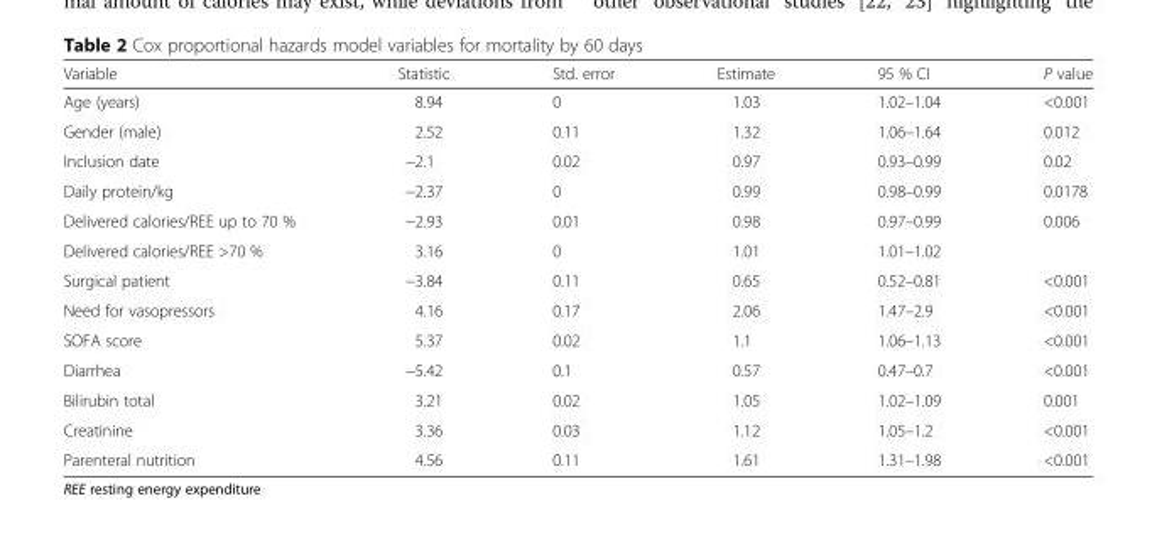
<table><thead><tr><td>Variable</td><td>Statistic</td><td>Std. error</td><td>Estimate</td><td>95 % CI</td><td>P value</td></tr></thead><tbody><tr><td>Age (years)</td><td>8.94</td><td>0</td><td>1.03</td><td>1.02–1.04</td><td>&lt;0.001</td></tr><tr><td>Gender (male)</td><td>2.52</td><td>0.11</td><td>1.32</td><td>1.06–1.64</td><td>0.012</td></tr><tr><td>Inclusion date</td><td>−2.1</td><td>0.02</td><td>0.97</td><td>0.93–0.99</td><td>0.02</td></tr><tr><td>Daily protein/kg</td><td>−2.37</td><td>0</td><td>0.99</td><td>0.98–0.99</td><td>0.0178</td></tr><tr><td>Delivered calories/REE up to 70 %</td><td>−2.93</td><td>0.01</td><td>0.98</td><td>0.97–0.99</td><td rowspan="2">0.006</td></tr><tr><td>Delivered calories/REE &gt;70 %</td><td>3.16</td><td>0</td><td>1.01</td><td>1.01–1.02</td></tr><tr><td>Surgical patient</td><td>−3.84</td><td>0.11</td><td>0.65</td><td>0.52–0.81</td><td>&lt;0.001</td></tr><tr><td>Need for vasopressors</td><td>4.16</td><td>0.17</td><td>2.06</td><td>1.47–2.9</td><td>&lt;0.001</td></tr><tr><td>SOFA score</td><td>5.37</td><td>0.02</td><td>1.1</td><td>1.06–1.13</td><td>&lt;0.001</td></tr><tr><td>Diarrhea</td><td>−5.42</td><td>0.1</td><td>0.57</td><td>0.47–0.7</td><td>&lt;0.001</td></tr><tr><td>Bilirubin total</td><td>3.21</td><td>0.02</td><td>1.05</td><td>1.02–1.09</td><td>0.001</td></tr><tr><td>Creatinine</td><td>3.36</td><td>0.03</td><td>1.12</td><td>1.05–1.2</td><td>&lt;0.001</td></tr><tr><td>Parenteral nutrition</td><td>4.56</td><td>0.11</td><td>1.61</td><td>1.31–1.98</td><td>&lt;0.001</td></tr></tbody></table>